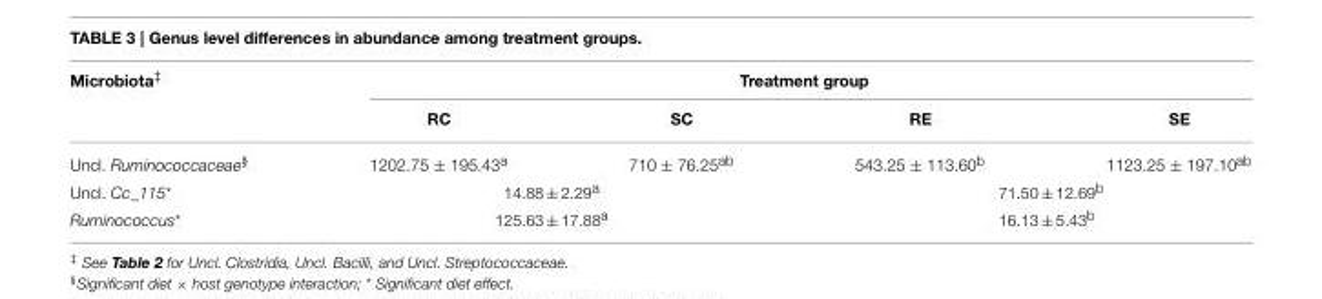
<table><thead><tr><td rowspan="2">Microbiota<sup>‡</sup></td><td colspan="4">Treatment group</td></tr><tr><td>RC</td><td>SC</td><td>RE</td><td>SE</td></tr></thead><tbody><tr><td>Uncl. Ruminococcaceae<sup>§</sup></td><td>1202.75 ± 195.43<sup>a</sup></td><td>710 ± 76.25<sup>ab</sup></td><td>543.25 ± 113.60<sup>b</sup></td><td>1123.25 ± 197.10<sup>ab</sup></td></tr><tr><td>Uncl. Cc_115*</td><td colspan="2">14.88 ± 2.29<sup>a</sup></td><td colspan="2">71.50 ± 12.69<sup>b</sup></td></tr><tr><td>Ruminococcus*</td><td colspan="2">125.63 ± 17.88<sup>a</sup></td><td colspan="2">16.13 ± 5.43<sup>b</sup></td></tr></tbody></table>